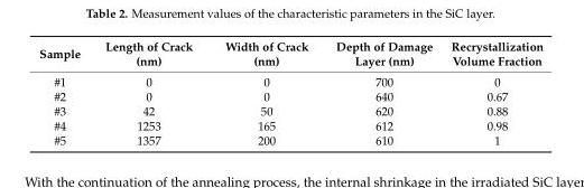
<table><thead><tr><td>Sample</td><td>Length of Crack (nm)</td><td>Width of Crack (nm)</td><td>Depth of Damage Layer (nm)</td><td>Recrystallization Volume Fraction</td></tr></thead><tbody><tr><td>#1</td><td>0</td><td>0</td><td>700</td><td>0</td></tr><tr><td>#2</td><td>0</td><td>0</td><td>640</td><td>0.67</td></tr><tr><td>#3</td><td>42</td><td>50</td><td>620</td><td>0.88</td></tr><tr><td>#4</td><td>1253</td><td>165</td><td>612</td><td>0.98</td></tr><tr><td>#5</td><td>1357</td><td>200</td><td>610</td><td>1</td></tr></tbody></table>